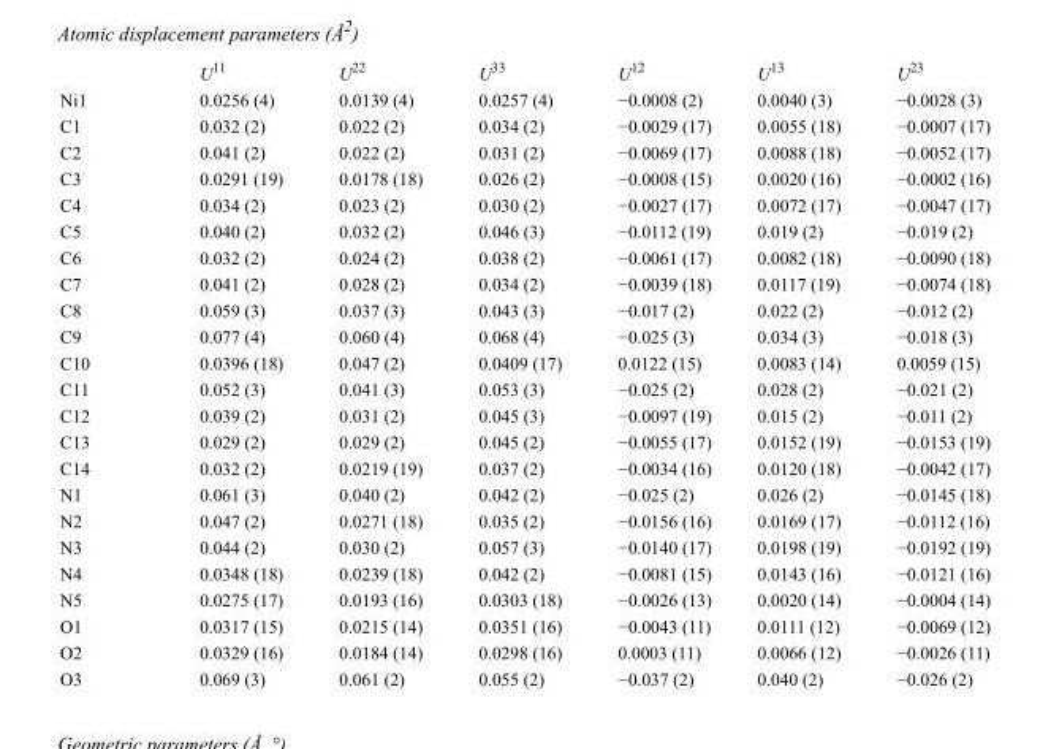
<table><thead><tr><td></td><td>U<sup>11</sup></td><td>U<sup>22</sup></td><td>U<sup>33</sup></td><td>U<sup>12</sup></td><td>U<sup>13</sup></td><td>U<sup>23</sup></td></tr></thead><tbody><tr><td>Ni1</td><td>0.0256 (4)</td><td>0.0139 (4)</td><td>0.0257 (4)</td><td>−0.0008 (2)</td><td>0.0040 (3)</td><td>−0.0028 (3)</td></tr><tr><td>C1</td><td>0.032 (2)</td><td>0.022 (2)</td><td>0.034 (2)</td><td>−0.0029 (17)</td><td>0.0055 (18)</td><td>−0.0007 (17)</td></tr><tr><td>C2</td><td>0.041 (2)</td><td>0.022 (2)</td><td>0.031 (2)</td><td>−0.0069 (17)</td><td>0.0088 (18)</td><td>−0.0052 (17)</td></tr><tr><td>C3</td><td>0.0291 (19)</td><td>0.0178 (18)</td><td>0.026 (2)</td><td>−0.0008 (15)</td><td>0.0020 (16)</td><td>−0.0002 (16)</td></tr><tr><td>C4</td><td>0.034 (2)</td><td>0.023 (2)</td><td>0.030 (2)</td><td>−0.0027 (17)</td><td>0.0072 (17)</td><td>−0.0047 (17)</td></tr><tr><td>C5</td><td>0.040 (2)</td><td>0.032 (2)</td><td>0.046 (3)</td><td>−0.0112 (19)</td><td>0.019 (2)</td><td>−0.019 (2)</td></tr><tr><td>C6</td><td>0.032 (2)</td><td>0.024 (2)</td><td>0.038 (2)</td><td>−0.0061 (17)</td><td>0.0082 (18)</td><td>−0.0090 (18)</td></tr><tr><td>C7</td><td>0.041 (2)</td><td>0.028 (2)</td><td>0.034 (2)</td><td>−0.0039 (18)</td><td>0.0117 (19)</td><td>−0.0074 (18)</td></tr><tr><td>C8</td><td>0.059 (3)</td><td>0.037 (3)</td><td>0.043 (3)</td><td>−0.017 (2)</td><td>0.022 (2)</td><td>−0.012 (2)</td></tr><tr><td>C9</td><td>0.077 (4)</td><td>0.060 (4)</td><td>0.068 (4)</td><td>−0.025 (3)</td><td>0.034 (3)</td><td>−0.018 (3)</td></tr><tr><td>C10</td><td>0.0396 (18)</td><td>0.047 (2)</td><td>0.0409 (17)</td><td>0.0122 (15)</td><td>0.0083 (14)</td><td>0.0059 (15)</td></tr><tr><td>C11</td><td>0.052 (3)</td><td>0.041 (3)</td><td>0.053 (3)</td><td>−0.025 (2)</td><td>0.028 (2)</td><td>−0.021 (2)</td></tr><tr><td>C12</td><td>0.039 (2)</td><td>0.031 (2)</td><td>0.045 (3)</td><td>−0.0097 (19)</td><td>0.015 (2)</td><td>−0.011 (2)</td></tr><tr><td>C13</td><td>0.029 (2)</td><td>0.029 (2)</td><td>0.045 (2)</td><td>−0.0055 (17)</td><td>0.0152 (19)</td><td>−0.0153 (19)</td></tr><tr><td>C14</td><td>0.032 (2)</td><td>0.0219 (19)</td><td>0.037 (2)</td><td>−0.0034 (16)</td><td>0.0120 (18)</td><td>−0.0042 (17)</td></tr><tr><td>N1</td><td>0.061 (3)</td><td>0.040 (2)</td><td>0.042 (2)</td><td>−0.025 (2)</td><td>0.026 (2)</td><td>−0.0145 (18)</td></tr><tr><td>N2</td><td>0.047 (2)</td><td>0.0271 (18)</td><td>0.035 (2)</td><td>−0.0156 (16)</td><td>0.0169 (17)</td><td>−0.0112 (16)</td></tr><tr><td>N3</td><td>0.044 (2)</td><td>0.030 (2)</td><td>0.057 (3)</td><td>−0.0140 (17)</td><td>0.0198 (19)</td><td>−0.0192 (19)</td></tr><tr><td>N4</td><td>0.0348 (18)</td><td>0.0239 (18)</td><td>0.042 (2)</td><td>−0.0081 (15)</td><td>0.0143 (16)</td><td>−0.0121 (16)</td></tr><tr><td>N5</td><td>0.0275 (17)</td><td>0.0193 (16)</td><td>0.0303 (18)</td><td>−0.0026 (13)</td><td>0.0020 (14)</td><td>−0.0004 (14)</td></tr><tr><td>O1</td><td>0.0317 (15)</td><td>0.0215 (14)</td><td>0.0351 (16)</td><td>−0.0043 (11)</td><td>0.0111 (12)</td><td>−0.0069 (12)</td></tr><tr><td>O2</td><td>0.0329 (16)</td><td>0.0184 (14)</td><td>0.0298 (16)</td><td>0.0003 (11)</td><td>0.0066 (12)</td><td>−0.0026 (11)</td></tr><tr><td>O3</td><td>0.069 (3)</td><td>0.061 (2)</td><td>0.055 (2)</td><td>−0.037 (2)</td><td>0.040 (2)</td><td>−0.026 (2)</td></tr></tbody></table>